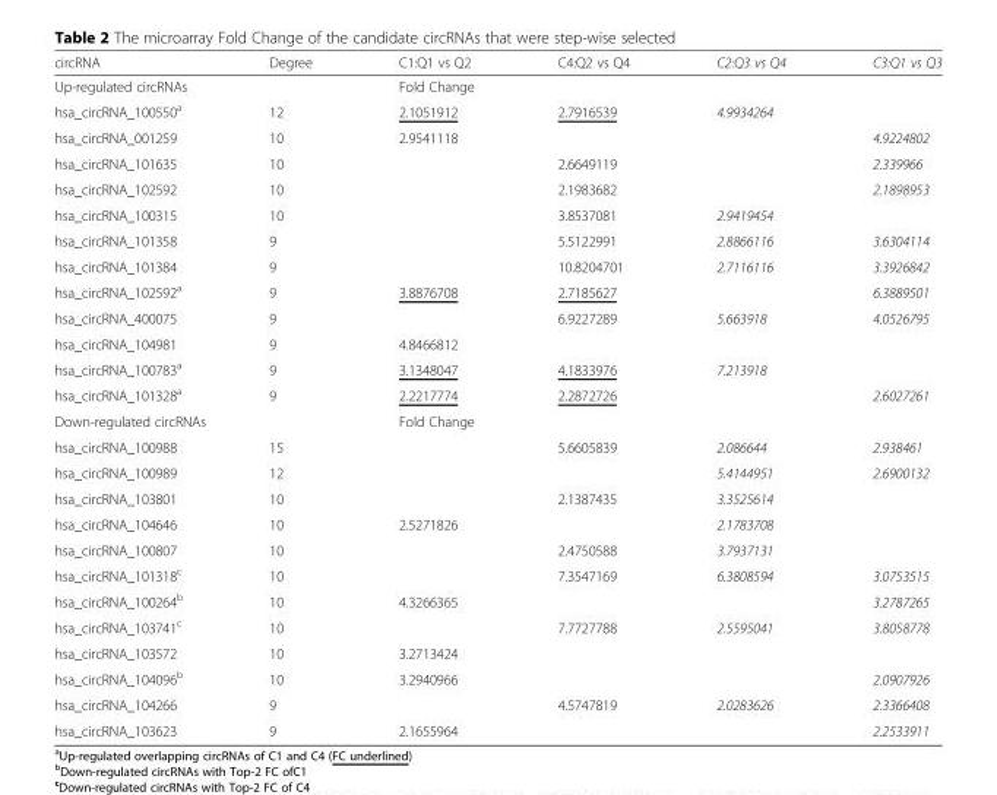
<table><thead><tr><td>circRNA</td><td>Degree</td><td>C1:Q1 vs Q2</td><td>C4:Q2 vs Q4</td><td>C2:Q3 vs Q4</td><td>C3:Q1 vs Q3</td></tr></thead><tbody><tr><td colspan="2">Up-regulated circRNAs</td><td colspan="4">Fold Change</td></tr><tr><td>hsa_circRNA_100550<sup>a</sup></td><td>12</td><td>2.1051912</td><td>2.7916539</td><td>4.9934264</td><td></td></tr><tr><td>hsa_circRNA_001259</td><td>10</td><td>2.9541118</td><td></td><td></td><td>4.9224802</td></tr><tr><td>hsa_circRNA_101635</td><td>10</td><td></td><td>2.6649119</td><td></td><td>2.339966</td></tr><tr><td>hsa_circRNA_102592</td><td>10</td><td></td><td>2.1983682</td><td></td><td>2.1898953</td></tr><tr><td>hsa_circRNA_100315</td><td>10</td><td></td><td>3.8537081</td><td>2.9419454</td><td></td></tr><tr><td>hsa_circRNA_101358</td><td>9</td><td></td><td>5.5122991</td><td>2.8866116</td><td>3.6304114</td></tr><tr><td>hsa_circRNA_101384</td><td>9</td><td></td><td>10.8204701</td><td>2.7116116</td><td>3.3926842</td></tr><tr><td>hsa_circRNA_102592<sup>a</sup></td><td>9</td><td>3.8876708</td><td>2.7185627</td><td></td><td>6.3889501</td></tr><tr><td>hsa_circRNA_400075</td><td>9</td><td></td><td>6.9227289</td><td>5.663918</td><td>4.0526795</td></tr><tr><td>hsa_circRNA_104981</td><td>9</td><td>4.8466812</td><td></td><td></td><td></td></tr><tr><td>hsa_circRNA_100783<sup>a</sup></td><td>9</td><td>3.1348047</td><td>4.1833976</td><td>7.213918</td><td></td></tr><tr><td>hsa_circRNA_101328<sup>a</sup></td><td>9</td><td>2.2217774</td><td>2.2872726</td><td></td><td>2.6027261</td></tr><tr><td colspan="2">Down-regulated circRNAs</td><td colspan="4">Fold Change</td></tr><tr><td>hsa_circRNA_100988</td><td>15</td><td></td><td>5.6605839</td><td>2.086644</td><td>2.938461</td></tr><tr><td>hsa_circRNA_100989</td><td>12</td><td></td><td></td><td>5.4144951</td><td>2.6900132</td></tr><tr><td>hsa_circRNA_103801</td><td>10</td><td></td><td>2.1387435</td><td>3.3525614</td><td></td></tr><tr><td>hsa_circRNA_104646</td><td>10</td><td>2.5271826</td><td></td><td>2.1783708</td><td></td></tr><tr><td>hsa_circRNA_100807</td><td>10</td><td></td><td>2.4750588</td><td>3.7937131</td><td></td></tr><tr><td>hsa_circRNA_101318<sup>c</sup></td><td>10</td><td></td><td>7.3547169</td><td>6.3808594</td><td>3.0753515</td></tr><tr><td>hsa_circRNA_100264<sup>b</sup></td><td>10</td><td>4.3266365</td><td></td><td></td><td>3.2787265</td></tr><tr><td>hsa_circRNA_103741<sup>c</sup></td><td>10</td><td></td><td>7.7727788</td><td>2.5595041</td><td>3.8058778</td></tr><tr><td>hsa_circRNA_103572</td><td>10</td><td>3.2713424</td><td></td><td></td><td></td></tr><tr><td>hsa_circRNA_104096<sup>b</sup></td><td>10</td><td>3.2940966</td><td></td><td></td><td>2.0907926</td></tr><tr><td>hsa_circRNA_104266</td><td>9</td><td></td><td>4.5747819</td><td>2.0283626</td><td>2.3366408</td></tr><tr><td>hsa_circRNA_103623</td><td>9</td><td>2.1655964</td><td></td><td></td><td>2.2533911</td></tr></tbody></table>